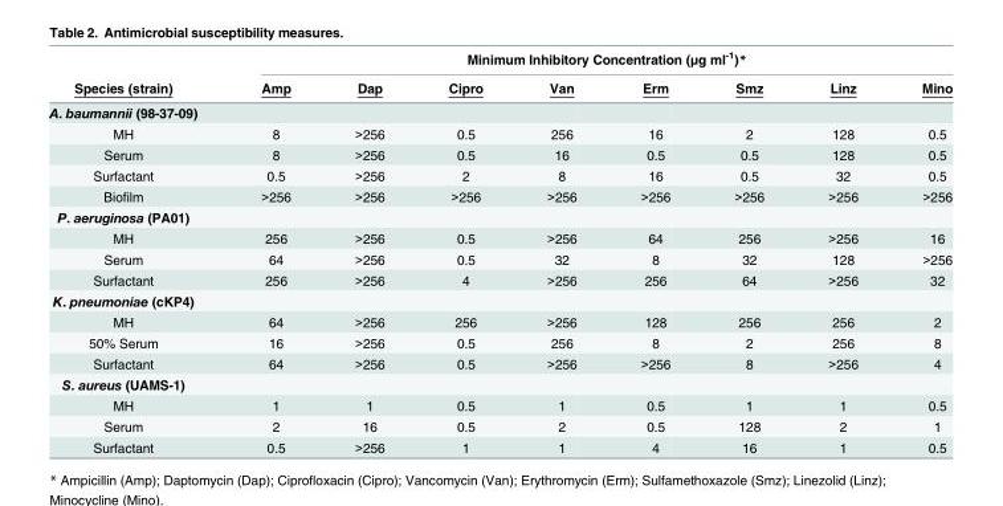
<table><thead><tr><td rowspan="2">Species (strain)</td><td colspan="8">Minimum Inhibitory Concentration (μg ml<sup>-1</sup>)*</td></tr><tr><td>Amp</td><td>Dap</td><td>Cipro</td><td>Van</td><td>Erm</td><td>Smz</td><td>Linz</td><td>Mino</td></tr></thead><tbody><tr><td colspan="9">A. baumannii (98-37-09)</td></tr><tr><td>MH</td><td>8</td><td>&gt;256</td><td>0.5</td><td>256</td><td>16</td><td>2</td><td>128</td><td>0.5</td></tr><tr><td>Serum</td><td>8</td><td>&gt;256</td><td>0.5</td><td>16</td><td>0.5</td><td>0.5</td><td>128</td><td>0.5</td></tr><tr><td>Surfactant</td><td>0.5</td><td>&gt;256</td><td>2</td><td>8</td><td>16</td><td>0.5</td><td>32</td><td>0.5</td></tr><tr><td>Biofilm</td><td>&gt;256</td><td>&gt;256</td><td>&gt;256</td><td>&gt;256</td><td>&gt;256</td><td>&gt;256</td><td>&gt;256</td><td>&gt;256</td></tr><tr><td colspan="9">P. aeruginosa (PA01)</td></tr><tr><td>MH</td><td>256</td><td>&gt;256</td><td>0.5</td><td>&gt;256</td><td>64</td><td>256</td><td>&gt;256</td><td>16</td></tr><tr><td>Serum</td><td>64</td><td>&gt;256</td><td>0.5</td><td>32</td><td>8</td><td>32</td><td>128</td><td>&gt;256</td></tr><tr><td>Surfactant</td><td>256</td><td>&gt;256</td><td>4</td><td>&gt;256</td><td>256</td><td>64</td><td>&gt;256</td><td>32</td></tr><tr><td colspan="9">K. pneumoniae (cKP4)</td></tr><tr><td>MH</td><td>64</td><td>&gt;256</td><td>256</td><td>&gt;256</td><td>128</td><td>256</td><td>256</td><td>2</td></tr><tr><td>50% Serum</td><td>16</td><td>&gt;256</td><td>0.5</td><td>256</td><td>8</td><td>2</td><td>256</td><td>8</td></tr><tr><td>Surfactant</td><td>64</td><td>&gt;256</td><td>0.5</td><td>&gt;256</td><td>&gt;256</td><td>8</td><td>&gt;256</td><td>4</td></tr><tr><td colspan="9">S. aureus (UAMS-1)</td></tr><tr><td>MH</td><td>1</td><td>1</td><td>0.5</td><td>1</td><td>0.5</td><td>1</td><td>1</td><td>0.5</td></tr><tr><td>Serum</td><td>2</td><td>16</td><td>0.5</td><td>2</td><td>0.5</td><td>128</td><td>2</td><td>1</td></tr><tr><td>Surfactant</td><td>0.5</td><td>&gt;256</td><td>1</td><td>1</td><td>4</td><td>16</td><td>1</td><td>0.5</td></tr></tbody></table>